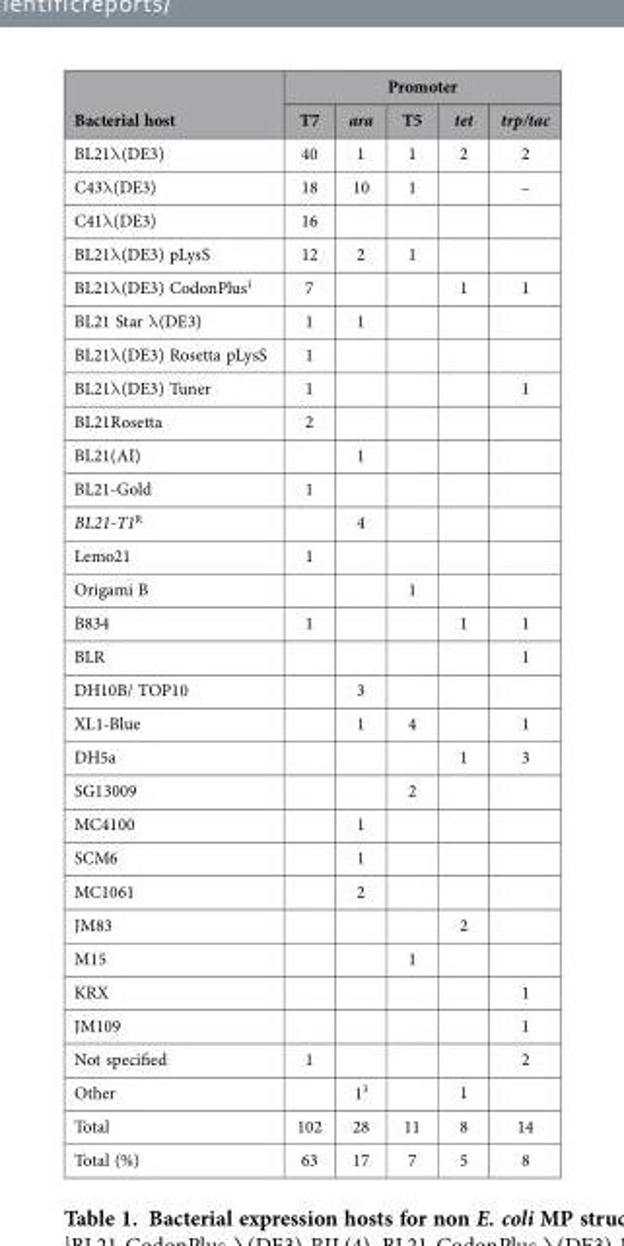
<table><thead><tr><td rowspan="2">Bacterial host</td><td colspan="5">Promoter</td></tr><tr><td>T7</td><td>ara</td><td>T5</td><td>tet</td><td>trp/tac</td></tr></thead><tbody><tr><td>BL21λ (DE3)</td><td>40</td><td>1</td><td>1</td><td>2</td><td>2</td></tr><tr><td>C43λ (DE3)</td><td>18</td><td>10</td><td>1</td><td></td><td>–</td></tr><tr><td>C41λ (DE3)</td><td>16</td><td></td><td></td><td></td><td></td></tr><tr><td>BL21λ (DE3) pLysS</td><td>12</td><td>2</td><td>1</td><td></td><td></td></tr><tr><td>BL21λ (DE3) CodonPlus<sup>1</sup></td><td>7</td><td></td><td></td><td>1</td><td>1</td></tr><tr><td>BL21 Star λ (DE3)</td><td>1</td><td>1</td><td></td><td></td><td></td></tr><tr><td>BL21λ (DE3) Rosetta pLysS</td><td>1</td><td></td><td></td><td></td><td></td></tr><tr><td>BL21λ (DE3) Tuner</td><td>1</td><td></td><td></td><td></td><td>1</td></tr><tr><td>BL21Rosetta</td><td>2</td><td></td><td></td><td></td><td></td></tr><tr><td>BL21(AI)</td><td></td><td>1</td><td></td><td></td><td></td></tr><tr><td>BL21-Gold</td><td>1</td><td></td><td></td><td></td><td></td></tr><tr><td>BL21-T1<sup>R</sup></td><td></td><td>4</td><td></td><td></td><td></td></tr><tr><td>Lemo21</td><td>1</td><td></td><td></td><td></td><td></td></tr><tr><td>Origami B</td><td></td><td></td><td>1</td><td></td><td></td></tr><tr><td>B834</td><td>1</td><td></td><td></td><td>1</td><td>1</td></tr><tr><td>BLR</td><td></td><td></td><td></td><td></td><td>1</td></tr><tr><td>DH10B/ TOP10</td><td></td><td>3</td><td></td><td></td><td></td></tr><tr><td>XL1-Blue</td><td></td><td>1</td><td>4</td><td></td><td>1</td></tr><tr><td>DH5a</td><td></td><td></td><td></td><td>1</td><td>3</td></tr><tr><td>SG13009</td><td></td><td></td><td>2</td><td></td><td></td></tr><tr><td>MC4100</td><td></td><td>1</td><td></td><td></td><td></td></tr><tr><td>SCM6</td><td></td><td>1</td><td></td><td></td><td></td></tr><tr><td>MC1061</td><td></td><td>2</td><td></td><td></td><td></td></tr><tr><td>JM83</td><td></td><td></td><td></td><td>2</td><td></td></tr><tr><td>M15</td><td></td><td></td><td>1</td><td></td><td></td></tr><tr><td>KRX</td><td></td><td></td><td></td><td></td><td>1</td></tr><tr><td>JM109</td><td></td><td></td><td></td><td></td><td>1</td></tr><tr><td>Not specified</td><td>1</td><td></td><td></td><td></td><td>2</td></tr><tr><td>Other</td><td></td><td>1<sup>3</sup></td><td></td><td>1</td><td></td></tr><tr><td>Total</td><td>102</td><td>28</td><td>11</td><td>8</td><td>14</td></tr><tr><td>Total (%)</td><td>63</td><td>17</td><td>7</td><td>5</td><td>8</td></tr></tbody></table>